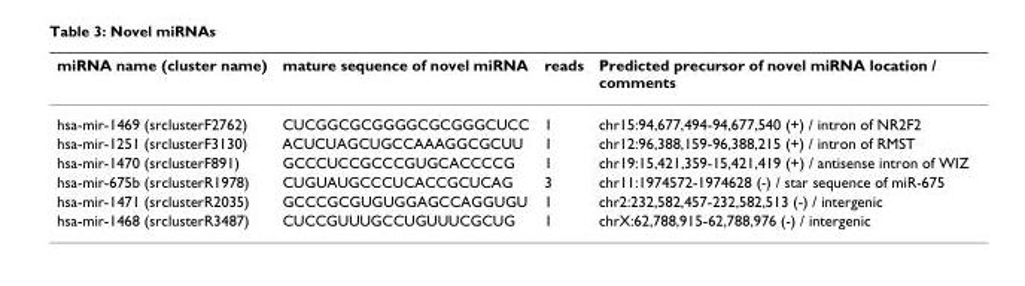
<table><thead><tr><td>miRNA name (cluster name)</td><td>mature sequence of novel miRNA</td><td>reads</td><td>Predicted precursor of novel miRNA location / comments</td></tr></thead><tbody><tr><td>hsa-mir-1469 (srclusterF2762)</td><td>CUCGGCGCGGGGCGCGGGCUCC</td><td>1</td><td>chr15:94,677,494-94,677,540 (+) / intron of NR2F2</td></tr><tr><td>hsa-mir-1251 (srclusterF3130)</td><td>ACUCUAGCUGCCAAAGGCGCUU</td><td>1</td><td>chr12:96,388,159-96,388,215 (+) / intron of RMST</td></tr><tr><td>hsa-mir-1470 (srclusterF891)</td><td>GCCCUCCGCCCGUGCACCCCG</td><td>1</td><td>chr19:15,421,359-15,421,419 (+) / antisense intron of WIZ</td></tr><tr><td>hsa-mir-675b (srclusterR1978)</td><td>CUGUAUGCCCUCACCGCUCAG</td><td>3</td><td>chr11:1974572-1974628 (-) / star sequence of miR-675</td></tr><tr><td>hsa-mir-1471 (srclusterR2035)</td><td>GCCCGCGUGUGGAGCCAGGUGU</td><td>1</td><td>chr2:232,582,457-232,582,513 (-) / intergenic</td></tr><tr><td>hsa-mir-1468 (srclusterR3487)</td><td>CUCCGUUUGCCUGUUUCGCUG</td><td>1</td><td>chrX:62,788,915-62,788,976 (-) / intergenic</td></tr></tbody></table>